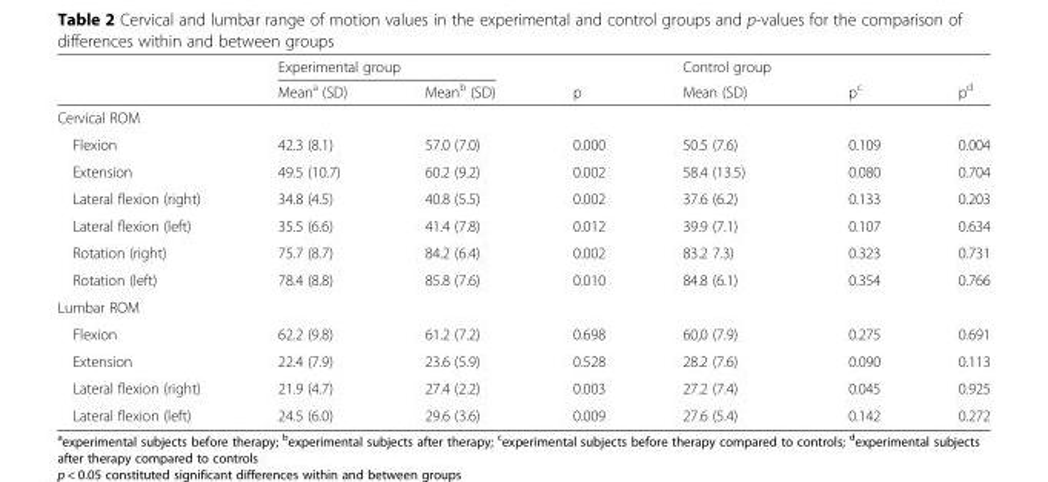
<table><thead><tr><td rowspan="2"></td><td colspan="2">Experimental group</td><td rowspan="2">p</td><td rowspan="2">Control group Mean (SD)</td><td rowspan="2">p<sup>c</sup></td><td rowspan="2">p<sup>d</sup></td></tr><tr><td>Mean<sup>a</sup> (SD)</td><td>Mean<sup>b</sup> (SD)</td></tr></thead><tbody><tr><td colspan="7">Cervical ROM</td></tr><tr><td>Flexion</td><td>42.3 (8.1)</td><td>57.0 (7.0)</td><td>0.000</td><td>50.5 (7.6)</td><td>0.109</td><td>0.004</td></tr><tr><td>Extension</td><td>49.5 (10.7)</td><td>60.2 (9.2)</td><td>0.002</td><td>58.4 (13.5)</td><td>0.080</td><td>0.704</td></tr><tr><td>Lateral flexion (right)</td><td>34.8 (4.5)</td><td>40.8 (5.5)</td><td>0.002</td><td>37.6 (6.2)</td><td>0.133</td><td>0.203</td></tr><tr><td>Lateral flexion (left)</td><td>35.5 (6.6)</td><td>41.4 (7.8)</td><td>0.012</td><td>39.9 (7.1)</td><td>0.107</td><td>0.634</td></tr><tr><td>Rotation (right)</td><td>75.7 (8.7)</td><td>84.2 (6.4)</td><td>0.002</td><td>83.2 7.3)</td><td>0.323</td><td>0.731</td></tr><tr><td>Rotation (left)</td><td>78.4 (8.8)</td><td>85.8 (7.6)</td><td>0.010</td><td>84.8 (6.1)</td><td>0.354</td><td>0.766</td></tr><tr><td colspan="7">Lumbar ROM</td></tr><tr><td>Flexion</td><td>62.2 (9.8)</td><td>61.2 (7.2)</td><td>0.698</td><td>60,0 (7.9)</td><td>0.275</td><td>0.691</td></tr><tr><td>Extension</td><td>22.4 (7.9)</td><td>23.6 (5.9)</td><td>0.528</td><td>28.2 (7.6)</td><td>0.090</td><td>0.113</td></tr><tr><td>Lateral flexion (right)</td><td>21.9 (4.7)</td><td>27.4 (2.2)</td><td>0.003</td><td>27.2 (7.4)</td><td>0.045</td><td>0.925</td></tr><tr><td>Lateral flexion (left)</td><td>24.5 (6.0)</td><td>29.6 (3.6)</td><td>0.009</td><td>27.6 (5.4)</td><td>0.142</td><td>0.272</td></tr></tbody></table>